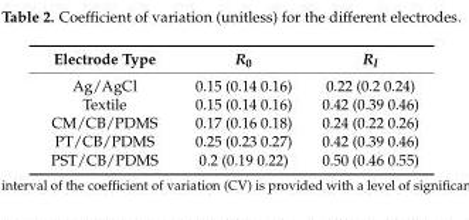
<table><thead><tr><td>Electrode Type</td><td>R<sub>0</sub></td><td>R<sub>I</sub></td></tr></thead><tbody><tr><td>Ag/AgCl</td><td>0.15 (0.14 0.16)</td><td>0.22 (0.2 0.24)</td></tr><tr><td>Textile</td><td>0.15 (0.14 0.16)</td><td>0.42 (0.39 0.46)</td></tr><tr><td>CM/CB/PDMS</td><td>0.17 (0.16 0.18)</td><td>0.24 (0.22 0.26)</td></tr><tr><td>PT/CB/PDMS</td><td>0.25 (0.23 0.27)</td><td>0.42 (0.39 0.46)</td></tr><tr><td>PST/CB/PDMS</td><td>0.2 (0.19 0.22)</td><td>0.50 (0.46 0.55)</td></tr></tbody></table>